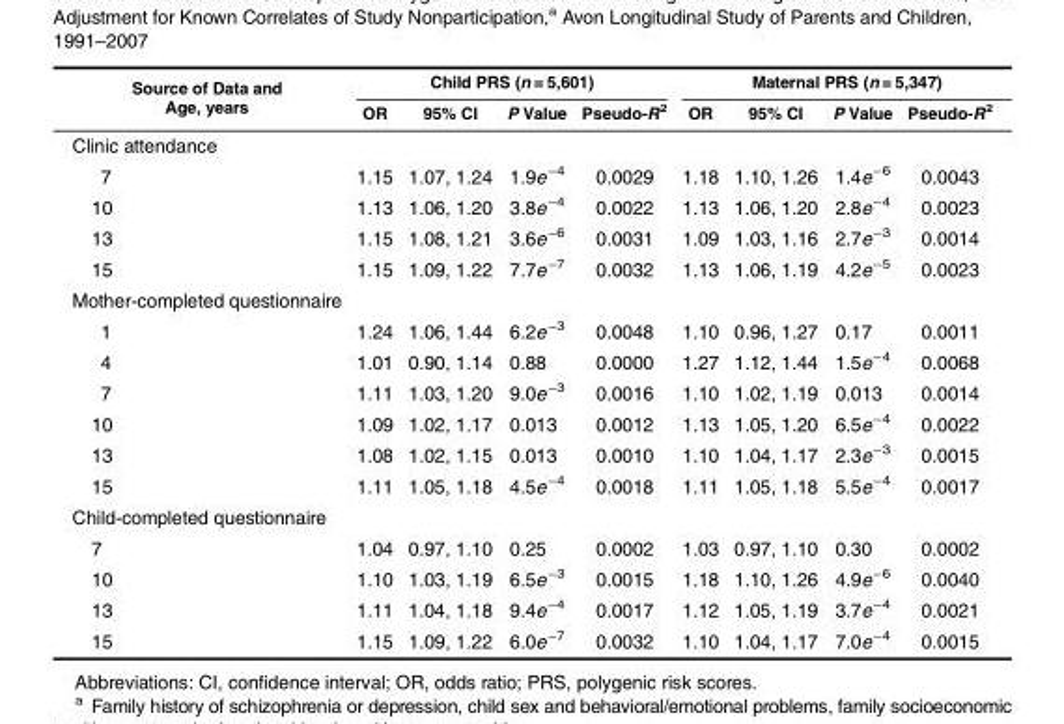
<table><thead><tr><td rowspan="2">Source of Data and Age, years</td><td colspan="4">Child PRS (n = 5,601)</td><td colspan="4">Maternal PRS (n = 5,347)</td></tr><tr><td>OR</td><td>95% CI</td><td>P Value</td><td>Pseudo-R<sup>2</sup></td><td>OR</td><td>95% CI</td><td>P Value</td><td>Pseudo-R<sup>2</sup></td></tr></thead><tbody><tr><td colspan="9">Clinic attendance</td></tr><tr><td>7</td><td>1.15</td><td>1.07, 1.24</td><td>1.9e<sup>−4</sup></td><td>0.0029</td><td>1.18</td><td>1.10, 1.26</td><td>1.4e<sup>−6</sup></td><td>0.0043</td></tr><tr><td>10</td><td>1.13</td><td>1.06, 1.20</td><td>3.8e<sup>−4</sup></td><td>0.0022</td><td>1.13</td><td>1.06, 1.20</td><td>2.8e<sup>−4</sup></td><td>0.0023</td></tr><tr><td>13</td><td>1.15</td><td>1.08, 1.21</td><td>3.6e<sup>−6</sup></td><td>0.0031</td><td>1.09</td><td>1.03, 1.16</td><td>2.7e<sup>−3</sup></td><td>0.0014</td></tr><tr><td>15</td><td>1.15</td><td>1.09, 1.22</td><td>7.7e<sup>−7</sup></td><td>0.0032</td><td>1.13</td><td>1.06, 1.19</td><td>4.2e<sup>−5</sup></td><td>0.0023</td></tr><tr><td colspan="9">Mother-completed questionnaire</td></tr><tr><td>1</td><td>1.24</td><td>1.06, 1.44</td><td>6.2e<sup>−3</sup></td><td>0.0048</td><td>1.10</td><td>0.96, 1.27</td><td>0.17</td><td>0.0011</td></tr><tr><td>4</td><td>1.01</td><td>0.90, 1.14</td><td>0.88</td><td>0.0000</td><td>1.27</td><td>1.12, 1.44</td><td>1.5e<sup>−4</sup></td><td>0.0068</td></tr><tr><td>7</td><td>1.11</td><td>1.03, 1.20</td><td>9.0e<sup>−3</sup></td><td>0.0016</td><td>1.10</td><td>1.02, 1.19</td><td>0.013</td><td>0.0014</td></tr><tr><td>10</td><td>1.09</td><td>1.02, 1.17</td><td>0.013</td><td>0.0012</td><td>1.13</td><td>1.05, 1.20</td><td>6.5e<sup>−4</sup></td><td>0.0022</td></tr><tr><td>13</td><td>1.08</td><td>1.02, 1.15</td><td>0.013</td><td>0.0010</td><td>1.10</td><td>1.04, 1.17</td><td>2.3e<sup>−3</sup></td><td>0.0015</td></tr><tr><td>15</td><td>1.11</td><td>1.05, 1.18</td><td>4.5e<sup>−4</sup></td><td>0.0018</td><td>1.11</td><td>1.05, 1.18</td><td>5.5e<sup>−4</sup></td><td>0.0017</td></tr><tr><td colspan="9">Child-completed questionnaire</td></tr><tr><td>7</td><td>1.04</td><td>0.97, 1.10</td><td>0.25</td><td>0.0002</td><td>1.03</td><td>0.97, 1.10</td><td>0.30</td><td>0.0002</td></tr><tr><td>10</td><td>1.10</td><td>1.03, 1.19</td><td>6.5e<sup>−3</sup></td><td>0.0015</td><td>1.18</td><td>1.10, 1.26</td><td>4.9e<sup>−6</sup></td><td>0.0040</td></tr><tr><td>13</td><td>1.11</td><td>1.04, 1.18</td><td>9.4e<sup>−4</sup></td><td>0.0017</td><td>1.12</td><td>1.05, 1.19</td><td>3.7e<sup>−4</sup></td><td>0.0021</td></tr><tr><td>15</td><td>1.15</td><td>1.09, 1.22</td><td>6.0e<sup>−7</sup></td><td>0.0032</td><td>1.10</td><td>1.04, 1.17</td><td>7.0e<sup>−4</sup></td><td>0.0015</td></tr></tbody></table>